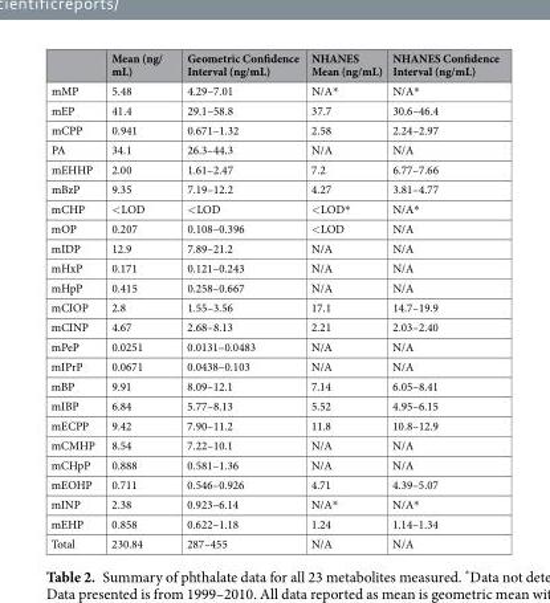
<table><thead><tr><td></td><td>Mean (ng/ mL)</td><td>Geometric Confidence Interval (ng/mL)</td><td>NHANES Mean (ng/mL)</td><td>NHANES Confidence Interval (ng/mL)</td></tr></thead><tbody><tr><td>mMP</td><td>5.48</td><td>4.29–7.01</td><td>N/A*</td><td>N/A*</td></tr><tr><td>mEP</td><td>41.4</td><td>29.1–58.8</td><td>37.7</td><td>30.6–46.4</td></tr><tr><td>mCPP</td><td>0.941</td><td>0.671–1.32</td><td>2.58</td><td>2.24–2.97</td></tr><tr><td>PA</td><td>34.1</td><td>26.3–44.3</td><td>N/A</td><td>N/A</td></tr><tr><td>mEHHP</td><td>2.00</td><td>1.61–2.47</td><td>7.2</td><td>6.77–7.66</td></tr><tr><td>mBzP</td><td>9.35</td><td>7.19–12.2</td><td>4.27</td><td>3.81–4.77</td></tr><tr><td>mCHP</td><td>&lt;LOD</td><td>&lt;LOD</td><td>&lt;LOD*</td><td>N/A*</td></tr><tr><td>mOP</td><td>0.207</td><td>0.108–0.396</td><td>&lt;LOD</td><td>N/A</td></tr><tr><td>mIDP</td><td>12.9</td><td>7.89–21.2</td><td>N/A</td><td>N/A</td></tr><tr><td>mHxP</td><td>0.171</td><td>0.121–0.243</td><td>N/A</td><td>N/A</td></tr><tr><td>mHpP</td><td>0.415</td><td>0.258–0.667</td><td>N/A</td><td>N/A</td></tr><tr><td>mCIOP</td><td>2.8</td><td>1.55–3.56</td><td>17.1</td><td>14.7–19.9</td></tr><tr><td>mCINP</td><td>4.67</td><td>2.68–8.13</td><td>2.21</td><td>2.03–2.40</td></tr><tr><td>mPeP</td><td>0.0251</td><td>0.0131–0.0483</td><td>N/A</td><td>N/A</td></tr><tr><td>mIPrP</td><td>0.0671</td><td>0.0438–0.103</td><td>N/A</td><td>N/A</td></tr><tr><td>mBP</td><td>9.91</td><td>8.09–12.1</td><td>7.14</td><td>6.05–8.41</td></tr><tr><td>mIBP</td><td>6.84</td><td>5.77–8.13</td><td>5.52</td><td>4.95–6.15</td></tr><tr><td>mECPP</td><td>9.42</td><td>7.90–11.2</td><td>11.8</td><td>10.8–12.9</td></tr><tr><td>mCMHP</td><td>8.54</td><td>7.22–10.1</td><td>N/A</td><td>N/A</td></tr><tr><td>mCHpP</td><td>0.888</td><td>0.581–1.36</td><td>N/A</td><td>N/A</td></tr><tr><td>mEOHP</td><td>0.711</td><td>0.546–0.926</td><td>4.71</td><td>4.39–5.07</td></tr><tr><td>mINP</td><td>2.38</td><td>0.923–6.14</td><td>N/A*</td><td>N/A*</td></tr><tr><td>mEHP</td><td>0.858</td><td>0.622–1.18</td><td>1.24</td><td>1.14–1.34</td></tr><tr><td>Total</td><td>230.84</td><td>287–455</td><td>N/A</td><td>N/A</td></tr></tbody></table>